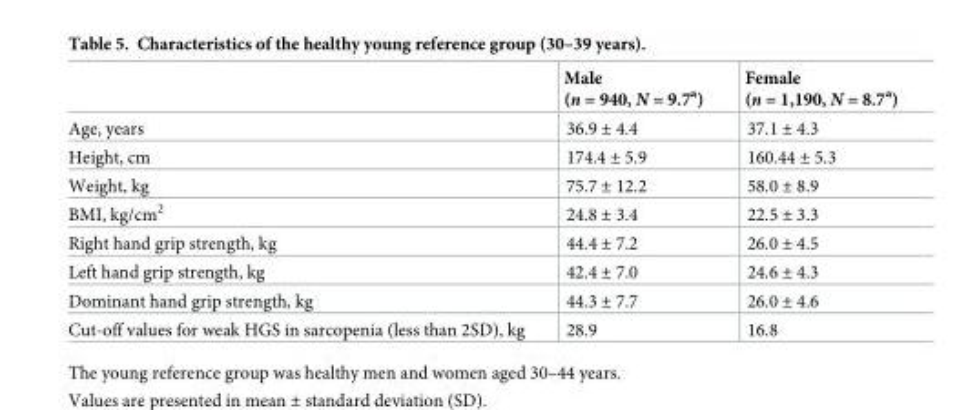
<table><thead><tr><td></td><td>Male (n = 940, N = 9.7<sup>a</sup>)</td><td>Female (n = 1,190, N = 8.7<sup>a</sup>)</td></tr></thead><tbody><tr><td>Age, years</td><td>36.9 ± 4.4</td><td>37.1 ± 4.3</td></tr><tr><td>Height, cm</td><td>174.4 ± 5.9</td><td>160.44 ± 5.3</td></tr><tr><td>Weight, kg</td><td>75.7 ± 12.2</td><td>58.0 ± 8.9</td></tr><tr><td>BMI, kg/cm<sup>2</sup></td><td>24.8 ± 3.4</td><td>22.5 ± 3.3</td></tr><tr><td>Right hand grip strength, kg</td><td>44.4 ± 7.2</td><td>26.0 ± 4.5</td></tr><tr><td>Left hand grip strength, kg</td><td>42.4 ± 7.0</td><td>24.6 ± 4.3</td></tr><tr><td>Dominant hand grip strength, kg</td><td>44.3 ± 7.7</td><td>26.0 ± 4.6</td></tr><tr><td>Cut-off values for weak HGS in sarcopenia (less than 2SD), kg</td><td>28.9</td><td>16.8</td></tr></tbody></table>